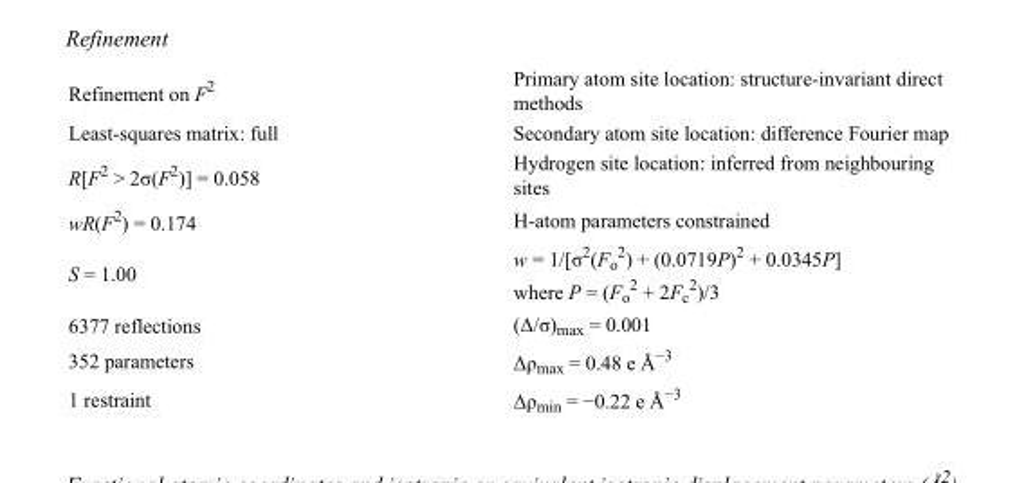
<table><tbody><tr><td>Refinement on F<sup>2</sup></td><td>Primary atom site location: structure-invariant direct methods</td></tr><tr><td>Least-squares matrix: full</td><td>Secondary atom site location: difference Fourier map</td></tr><tr><td>R[F<sup>2</sup> &gt; 2σ(F<sup>2</sup>)] = 0.058</td><td>Hydrogen site location: inferred from neighbouring sites</td></tr><tr><td>wR(F<sup>2</sup>) = 0.174</td><td>H-atom parameters constrained</td></tr><tr><td>S = 1.00</td><td>w = 1/[σ<sup>2</sup>(F<sub>o</sub> <sup>2</sup>) + (0.0719P)<sup>2</sup> + 0.0345P] where P = (F<sub>o</sub> <sup>2</sup> + 2F<sub>c</sub> <sup>2</sup>)/3</td></tr><tr><td>6377 reflections</td><td>(Δ/σ)<sub>max</sub> = 0.001</td></tr><tr><td>352 parameters</td><td>Δρ<sub>max</sub> = 0.48 e Å<sup>−3</sup></td></tr><tr><td>1 restraint</td><td>Δρ<sub>min</sub> = −0.22 e Å<sup>−3</sup></td></tr></tbody></table>